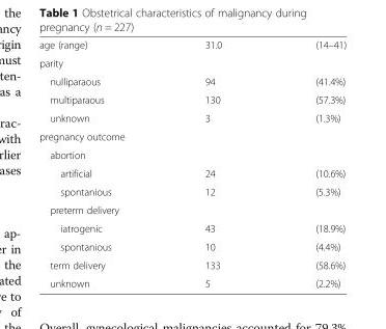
<table><tbody><tr><td>age (range)</td><td>31.0</td><td>(14–41)</td></tr><tr><td colspan="3">parity</td></tr><tr><td>nulliparaous</td><td>94</td><td>(41.4%)</td></tr><tr><td>multiparaous</td><td>130</td><td>(57.3%)</td></tr><tr><td>unknown</td><td>3</td><td>(1.3%)</td></tr><tr><td colspan="3">pregnancy outcome</td></tr><tr><td colspan="3">abortion</td></tr><tr><td>artificial</td><td>24</td><td>(10.6%)</td></tr><tr><td>spontanious</td><td>12</td><td>(5.3%)</td></tr><tr><td colspan="3">preterm delivery</td></tr><tr><td>iatrogenic</td><td>43</td><td>(18.9%)</td></tr><tr><td>spontanious</td><td>10</td><td>(4.4%)</td></tr><tr><td>term delivery</td><td>133</td><td>(58.6%)</td></tr><tr><td>unknown</td><td>5</td><td>(2.2%)</td></tr></tbody></table>